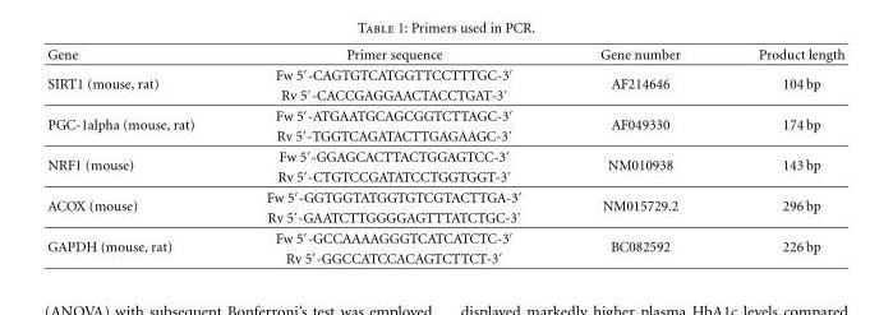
<table><thead><tr><td>Gene</td><td>Primer sequence</td><td>Gene number</td><td>Product length</td></tr></thead><tbody><tr><td rowspan="2">SIRT1 (mouse, rat)</td><td>Fw 5′-CAGTGTCATGGTTCCTTTGC-3′</td><td rowspan="2">AF214646</td><td rowspan="2">104 bp</td></tr><tr><td>Rv 5′-CACCGAGGAACTACCTGAT-3′</td></tr><tr><td rowspan="2">PGC-1alpha (mouse, rat)</td><td>Fw 5′-ATGAATGCAGCGGTCTTAGC-3′</td><td rowspan="2">AF049330</td><td rowspan="2">174 bp</td></tr><tr><td>Rv 5′-TGGTCAGATACTTGAGAAGC-3′</td></tr><tr><td rowspan="2">NRF1 (mouse)</td><td>Fw 5′-GGAGCACTTACTGGAGTCC-3′</td><td rowspan="2">NM010938</td><td rowspan="2">143 bp</td></tr><tr><td>Rv 5′-CTGTCCGATATCCTGGTGGT-3′</td></tr><tr><td rowspan="2">ACOX (mouse)</td><td>Fw 5′-GGTGGTATGGTGTCGTACTTGA-3′</td><td rowspan="2">NM015729.2</td><td rowspan="2">296 bp</td></tr><tr><td>Rv 5′-GAATCTTGGGGAGTTTATCTGC-3′</td></tr><tr><td rowspan="2">GAPDH (mouse, rat)</td><td>Fw 5′-GCCAAAAGGGTCATCATCTC-3′</td><td rowspan="2">BC082592</td><td rowspan="2">226 bp</td></tr><tr><td>Rv 5′-GGCCATCCACAGTCTTCT-3′</td></tr></tbody></table>